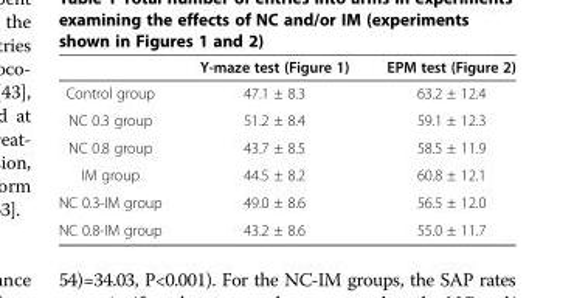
<table><thead><tr><td></td><td>Y-maze test (Figure 1)</td><td>EPM test (Figure 2)</td></tr></thead><tbody><tr><td>Control group</td><td>47.1 ± 8.3</td><td>63.2 ± 12.4</td></tr><tr><td>NC 0.3 group</td><td>51.2 ± 8.4</td><td>59.1 ± 12.3</td></tr><tr><td>NC 0.8 group</td><td>43.7 ± 8.5</td><td>58.5 ± 11.9</td></tr><tr><td>IM group</td><td>44.5 ± 8.2</td><td>60.8 ± 12.1</td></tr><tr><td>NC 0.3-IM group</td><td>49.0 ± 8.6</td><td>56.5 ± 12.0</td></tr><tr><td>NC 0.8-IM group</td><td>43.2 ± 8.6</td><td>55.0 ± 11.7</td></tr></tbody></table>